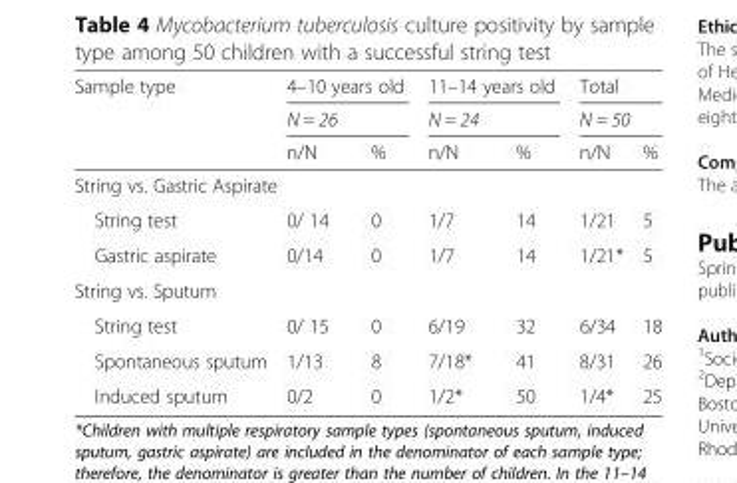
<table><thead><tr><td rowspan="3">Sample type</td><td rowspan="2" colspan="2">4–10 years old N = 26</td><td rowspan="2" colspan="2">11–14 years old N = 24</td><td rowspan="2" colspan="2">Total N = 50</td></tr><tr></tr><tr><td>n/N</td><td>%</td><td>n/N</td><td>%</td><td>n/N</td><td>%</td></tr></thead><tbody><tr><td colspan="7">String vs. Gastric Aspirate</td></tr><tr><td>String test</td><td>0/ 14</td><td>0</td><td>1/7</td><td>14</td><td>1/21</td><td>5</td></tr><tr><td>Gastric aspirate</td><td>0/14</td><td>0</td><td>1/7</td><td>14</td><td>1/21*</td><td>5</td></tr><tr><td colspan="7">String vs. Sputum</td></tr><tr><td>String test</td><td>0/ 15</td><td>0</td><td>6/19</td><td>32</td><td>6/34</td><td>18</td></tr><tr><td>Spontaneous sputum</td><td>1/13</td><td>8</td><td>7/18*</td><td>41</td><td>8/31</td><td>26</td></tr><tr><td>Induced sputum</td><td>0/2</td><td>0</td><td>1/2*</td><td>50</td><td>1/4*</td><td>25</td></tr></tbody></table>